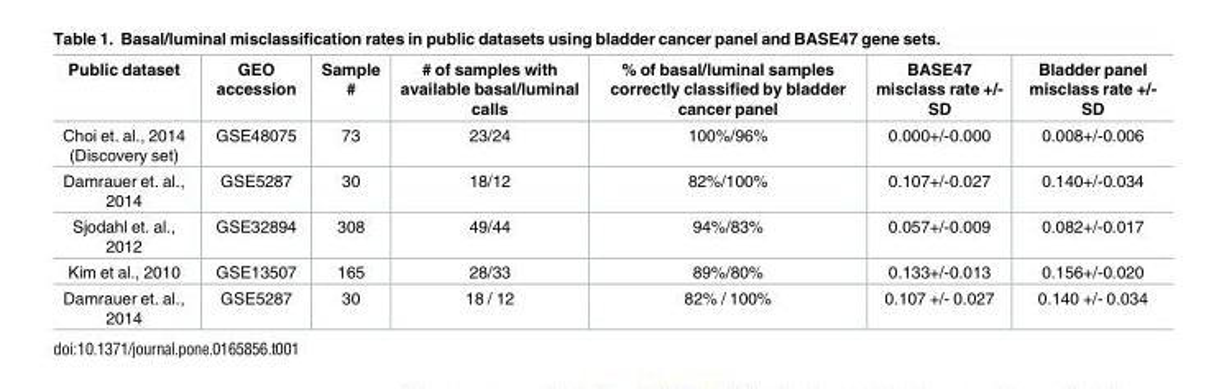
<table><thead><tr><td>Public dataset</td><td>GEO accession</td><td>Sample #</td><td># of samples with available basal/luminal calls</td><td>% of basal/luminal samples correctly classified by bladder cancer panel</td><td>BASE47 misclass rate +/- SD</td><td>Bladder panel misclass rate +/- SD</td></tr></thead><tbody><tr><td>Choi et. al., 2014 (Discovery set)</td><td>GSE48075</td><td>73</td><td>23/24</td><td>100%/96%</td><td>0.000+/-0.000</td><td>0.008+/-0.006</td></tr><tr><td>Damrauer et. al., 2014</td><td>GSE5287</td><td>30</td><td>18/12</td><td>82%/100%</td><td>0.107+/-0.027</td><td>0.140+/-0.034</td></tr><tr><td>Sjodahl et. al., 2012</td><td>GSE32894</td><td>308</td><td>49/44</td><td>94%/83%</td><td>0.057+/-0.009</td><td>0.082+/-0.017</td></tr><tr><td>Kim et al., 2010</td><td>GSE13507</td><td>165</td><td>28/33</td><td>89%/80%</td><td>0.133+/-0.013</td><td>0.156+/-0.020</td></tr><tr><td>Damrauer et. al., 2014</td><td>GSE5287</td><td>30</td><td>18 / 12</td><td>82% / 100%</td><td>0.107 +/- 0.027</td><td>0.140 +/- 0.034</td></tr></tbody></table>